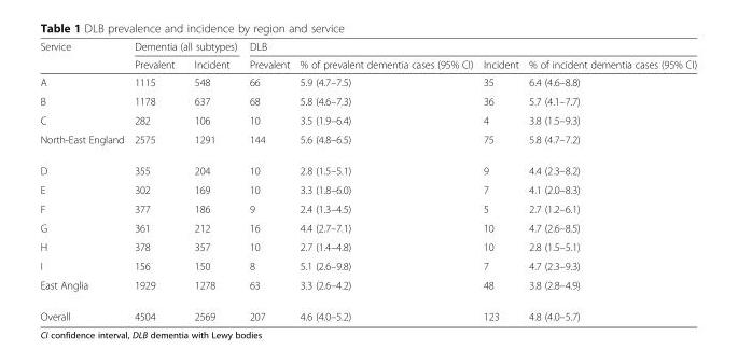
<table><thead><tr><td rowspan="2">Service</td><td colspan="2">Dementia (all subtypes)</td><td colspan="4">DLB</td></tr><tr><td>Prevalent</td><td>Incident</td><td>Prevalent</td><td>% of prevalent dementia cases (95% CI)</td><td>Incident</td><td>% of incident dementia cases (95% CI)</td></tr></thead><tbody><tr><td>A</td><td>1115</td><td>548</td><td>66</td><td>5.9 (4.7–7.5)</td><td>35</td><td>6.4 (4.6–8.8)</td></tr><tr><td>B</td><td>1178</td><td>637</td><td>68</td><td>5.8 (4.6–7.3)</td><td>36</td><td>5.7 (4.1–7.7)</td></tr><tr><td>C</td><td>282</td><td>106</td><td>10</td><td>3.5 (1.9–6.4)</td><td>4</td><td>3.8 (1.5–9.3)</td></tr><tr><td>North-East England</td><td>2575</td><td>1291</td><td>144</td><td>5.6 (4.8–6.5)</td><td>75</td><td>5.8 (4.7–7.2)</td></tr><tr><td>D</td><td>355</td><td>204</td><td>10</td><td>2.8 (1.5–5.1)</td><td>9</td><td>4.4 (2.3–8.2)</td></tr><tr><td>E</td><td>302</td><td>169</td><td>10</td><td>3.3 (1.8–6.0)</td><td>7</td><td>4.1 (2.0–8.3)</td></tr><tr><td>F</td><td>377</td><td>186</td><td>9</td><td>2.4 (1.3–4.5)</td><td>5</td><td>2.7 (1.2–6.1)</td></tr><tr><td>G</td><td>361</td><td>212</td><td>16</td><td>4.4 (2.7–7.1)</td><td>10</td><td>4.7 (2.6–8.5)</td></tr><tr><td>H</td><td>378</td><td>357</td><td>10</td><td>2.7 (1.4–4.8)</td><td>10</td><td>2.8 (1.5–5.1)</td></tr><tr><td>I</td><td>156</td><td>150</td><td>8</td><td>5.1 (2.6–9.8)</td><td>7</td><td>4.7 (2.3–9.3)</td></tr><tr><td>East Anglia</td><td>1929</td><td>1278</td><td>63</td><td>3.3 (2.6–4.2)</td><td>48</td><td>3.8 (2.8–4.9)</td></tr><tr><td>Overall</td><td>4504</td><td>2569</td><td>207</td><td>4.6 (4.0–5.2)</td><td>123</td><td>4.8 (4.0–5.7)</td></tr></tbody></table>